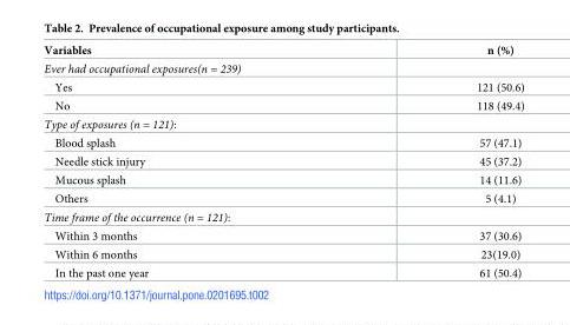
<table><thead><tr><td>Variables</td><td>n (%)</td></tr></thead><tbody><tr><td colspan="2">Ever had occupational exposures(n = 239)</td></tr><tr><td>Yes</td><td>121 (50.6)</td></tr><tr><td>No</td><td>118 (49.4)</td></tr><tr><td colspan="2">Type of exposures (n = 121):</td></tr><tr><td>Blood splash</td><td>57 (47.1)</td></tr><tr><td>Needle stick injury</td><td>45 (37.2)</td></tr><tr><td>Mucous splash</td><td>14 (11.6)</td></tr><tr><td>Others</td><td>5 (4.1)</td></tr><tr><td colspan="2">Time frame of the occurrence (n = 121):</td></tr><tr><td>Within 3 months</td><td>37 (30.6)</td></tr><tr><td>Within 6 months</td><td>23(19.0)</td></tr><tr><td>In the past one year</td><td>61 (50.4)</td></tr></tbody></table>